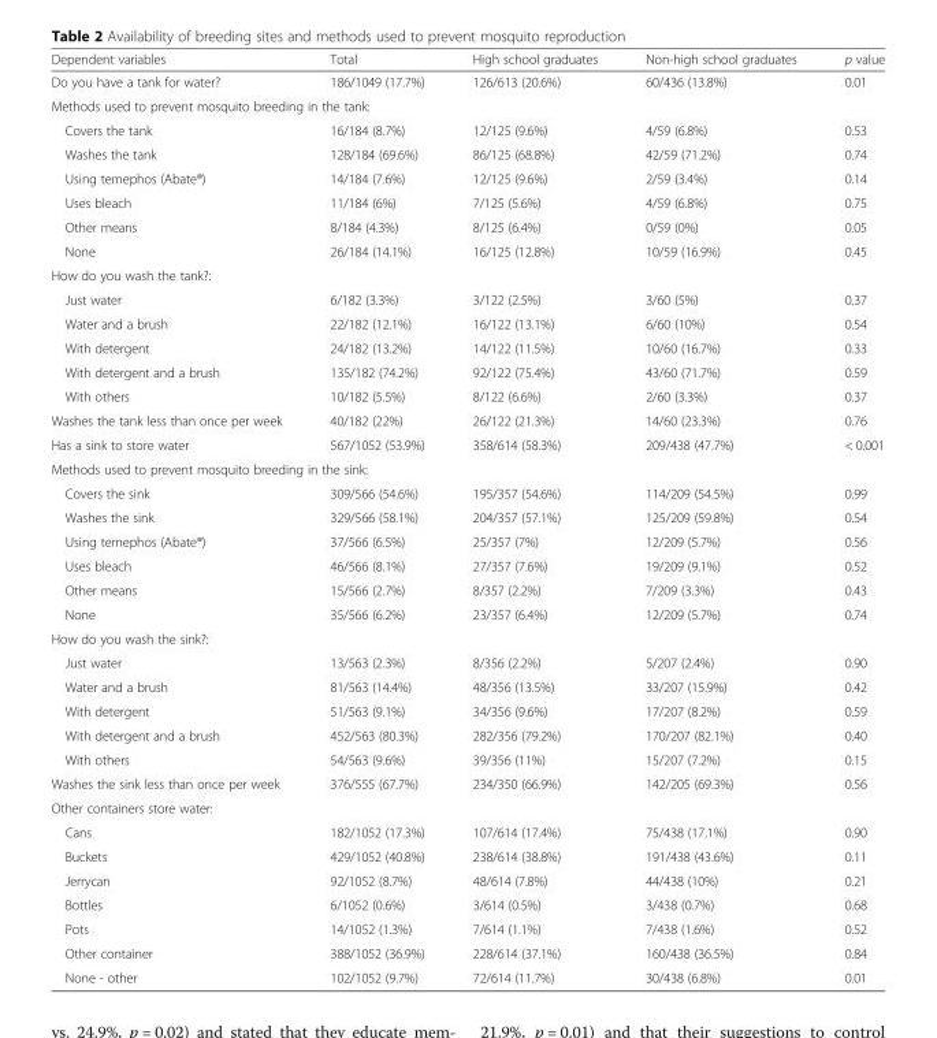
<table><thead><tr><td>Dependent variables</td><td>Total</td><td>High school graduates</td><td>Non-high school graduates</td><td>p value</td></tr></thead><tbody><tr><td>Do you have a tank for water?</td><td>186/1049 (17.7%)</td><td>126/613 (20.6%)</td><td>60/436 (13.8%)</td><td>0.01</td></tr><tr><td colspan="5">Methods used to prevent mosquito breeding in the tank:</td></tr><tr><td>Covers the tank</td><td>16/184 (8.7%)</td><td>12/125 (9.6%)</td><td>4/59 (6.8%)</td><td>0.53</td></tr><tr><td>Washes the tank</td><td>128/184 (69.6%)</td><td>86/125 (68.8%)</td><td>42/59 (71.2%)</td><td>0.74</td></tr><tr><td>Using temephos (Abate®)</td><td>14/184 (7.6%)</td><td>12/125 (9.6%)</td><td>2/59 (3.4%)</td><td>0.14</td></tr><tr><td>Uses bleach</td><td>11/184 (6%)</td><td>7/125 (5.6%)</td><td>4/59 (6.8%)</td><td>0.75</td></tr><tr><td>Other means</td><td>8/184 (4.3%)</td><td>8/125 (6.4%)</td><td>0/59 (0%)</td><td>0.05</td></tr><tr><td>None</td><td>26/184 (14.1%)</td><td>16/125 (12.8%)</td><td>10/59 (16.9%)</td><td>0.45</td></tr><tr><td colspan="5">How do you wash the tank?:</td></tr><tr><td>Just water</td><td>6/182 (3.3%)</td><td>3/122 (2.5%)</td><td>3/60 (5%)</td><td>0.37</td></tr><tr><td>Water and a brush</td><td>22/182 (12.1%)</td><td>16/122 (13.1%)</td><td>6/60 (10%)</td><td>0.54</td></tr><tr><td>With detergent</td><td>24/182 (13.2%)</td><td>14/122 (11.5%)</td><td>10/60 (16.7%)</td><td>0.33</td></tr><tr><td>With detergent and a brush</td><td>135/182 (74.2%)</td><td>92/122 (75.4%)</td><td>43/60 (71.7%)</td><td>0.59</td></tr><tr><td>With others</td><td>10/182 (5.5%)</td><td>8/122 (6.6%)</td><td>2/60 (3.3%)</td><td>0.37</td></tr><tr><td>Washes the tank less than once per week</td><td>40/182 (22%)</td><td>26/122 (21.3%)</td><td>14/60 (23.3%)</td><td>0.76</td></tr><tr><td>Has a sink to store water</td><td>567/1052 (53.9%)</td><td>358/614 (58.3%)</td><td>209/438 (47.7%)</td><td>&lt; 0.001</td></tr><tr><td colspan="5">Methods used to prevent mosquito breeding in the sink:</td></tr><tr><td>Covers the sink</td><td>309/566 (54.6%)</td><td>195/357 (54.6%)</td><td>114/209 (54.5%)</td><td>0.99</td></tr><tr><td>Washes the sink</td><td>329/566 (58.1%)</td><td>204/357 (57.1%)</td><td>125/209 (59.8%)</td><td>0.54</td></tr><tr><td>Using temephos (Abate®)</td><td>37/566 (6.5%)</td><td>25/357 (7%)</td><td>12/209 (5.7%)</td><td>0.56</td></tr><tr><td>Uses bleach</td><td>46/566 (8.1%)</td><td>27/357 (7.6%)</td><td>19/209 (9.1%)</td><td>0.52</td></tr><tr><td>Other means</td><td>15/566 (2.7%)</td><td>8/357 (2.2%)</td><td>7/209 (3.3%)</td><td>0.43</td></tr><tr><td>None</td><td>35/566 (6.2%)</td><td>23/357 (6.4%)</td><td>12/209 (5.7%)</td><td>0.74</td></tr><tr><td colspan="5">How do you wash the sink?:</td></tr><tr><td>Just water</td><td>13/563 (2.3%)</td><td>8/356 (2.2%)</td><td>5/207 (2.4%)</td><td>0.90</td></tr><tr><td>Water and a brush</td><td>81/563 (14.4%)</td><td>48/356 (13.5%)</td><td>33/207 (15.9%)</td><td>0.42</td></tr><tr><td>With detergent</td><td>51/563 (9.1%)</td><td>34/356 (9.6%)</td><td>17/207 (8.2%)</td><td>0.59</td></tr><tr><td>With detergent and a brush</td><td>452/563 (80.3%)</td><td>282/356 (79.2%)</td><td>170/207 (82.1%)</td><td>0.40</td></tr><tr><td>With others</td><td>54/563 (9.6%)</td><td>39/356 (11%)</td><td>15/207 (7.2%)</td><td>0.15</td></tr><tr><td>Washes the sink less than once per week</td><td>376/555 (67.7%)</td><td>234/350 (66.9%)</td><td>142/205 (69.3%)</td><td>0.56</td></tr><tr><td colspan="5">Other containers store water:</td></tr><tr><td>Cans</td><td>182/1052 (17.3%)</td><td>107/614 (17.4%)</td><td>75/438 (17.1%)</td><td>0.90</td></tr><tr><td>Buckets</td><td>429/1052 (40.8%)</td><td>238/614 (38.8%)</td><td>191/438 (43.6%)</td><td>0.11</td></tr><tr><td>Jerrycan</td><td>92/1052 (8.7%)</td><td>48/614 (7.8%)</td><td>44/438 (10%)</td><td>0.21</td></tr><tr><td>Bottles</td><td>6/1052 (0.6%)</td><td>3/614 (0.5%)</td><td>3/438 (0.7%)</td><td>0.68</td></tr><tr><td>Pots</td><td>14/1052 (1.3%)</td><td>7/614 (1.1%)</td><td>7/438 (1.6%)</td><td>0.52</td></tr><tr><td>Other container</td><td>388/1052 (36.9%)</td><td>228/614 (37.1%)</td><td>160/438 (36.5%)</td><td>0.84</td></tr><tr><td>None - other</td><td>102/1052 (9.7%)</td><td>72/614 (11.7%)</td><td>30/438 (6.8%)</td><td>0.01</td></tr></tbody></table>